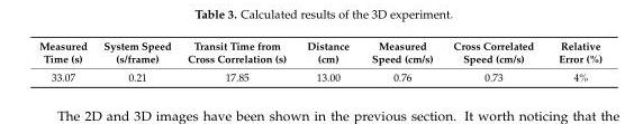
<table><thead><tr><td>Measured Time (s)</td><td>System Speed (s/frame)</td><td>Transit Time from Cross Correlation (s)</td><td>Distance (cm)</td><td>Measured Speed (cm/s)</td><td>Cross Correlated Speed (cm/s)</td><td>Relative Error (%)</td></tr></thead><tbody><tr><td>33.07</td><td>0.21</td><td>17.85</td><td>13.00</td><td>0.76</td><td>0.73</td><td>4%</td></tr></tbody></table>